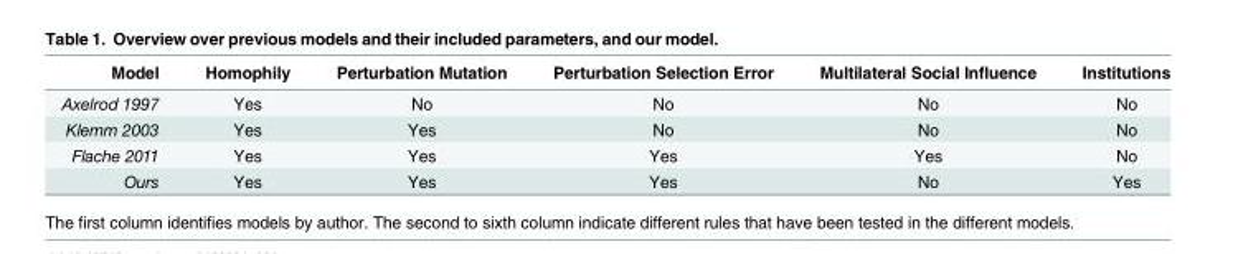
<table><thead><tr><td>Model</td><td>Homophily</td><td>Perturbation Mutation</td><td>Perturbation Selection Error</td><td>Multilateral Social Influence</td><td>Institutions</td></tr></thead><tbody><tr><td>Axelrod 1997</td><td>Yes</td><td>No</td><td>No</td><td>No</td><td>No</td></tr><tr><td>Klemm 2003</td><td>Yes</td><td>Yes</td><td>No</td><td>No</td><td>No</td></tr><tr><td>Flache 2011</td><td>Yes</td><td>Yes</td><td>Yes</td><td>Yes</td><td>No</td></tr><tr><td>Ours</td><td>Yes</td><td>Yes</td><td>Yes</td><td>No</td><td>Yes</td></tr></tbody></table>